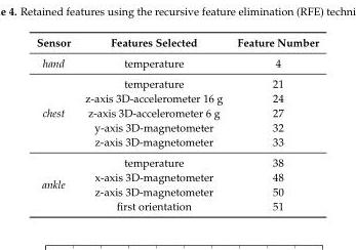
<table><thead><tr><td>Sensor</td><td>Features Selected</td><td>Feature Number</td></tr></thead><tbody><tr><td>hand</td><td>temperature</td><td>4</td></tr><tr><td rowspan="5">chest</td><td>temperature</td><td>21</td></tr><tr><td>z-axis 3D-accelerometer 16 g</td><td>24</td></tr><tr><td>z-axis 3D-accelerometer 6 g</td><td>27</td></tr><tr><td>y-axis 3D-magnetometer</td><td>32</td></tr><tr><td>z-axis 3D-magnetometer</td><td>33</td></tr><tr><td rowspan="4">ankle</td><td>temperature</td><td>38</td></tr><tr><td>x-axis 3D-magnetometer</td><td>48</td></tr><tr><td>z-axis 3D-magnetometer</td><td>50</td></tr><tr><td>first orientation</td><td>51</td></tr></tbody></table>